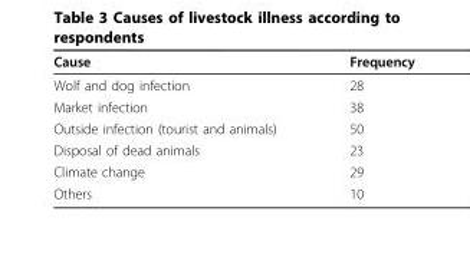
<table><thead><tr><td>Cause</td><td>Frequency</td></tr></thead><tbody><tr><td>Wolf and dog infection</td><td>28</td></tr><tr><td>Market infection</td><td>38</td></tr><tr><td>Outside infection (tourist and animals)</td><td>50</td></tr><tr><td>Disposal of dead animals</td><td>23</td></tr><tr><td>Climate change</td><td>29</td></tr><tr><td>Others</td><td>10</td></tr></tbody></table>